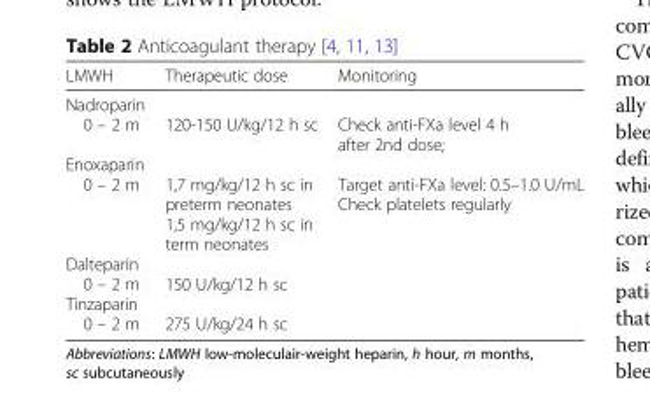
<table><thead><tr><td>LMWH</td><td>Therapeutic dose</td><td>Monitoring</td></tr></thead><tbody><tr><td>Nadroparin 0 – 2 m Enoxaparin 0 – 2 m Dalteparin 0 – 2 m Tinzaparin 0 – 2 m</td><td>120-150 U/kg/12 h sc 1,7 mg/kg/12 h sc in preterm neonates 1,5 mg/kg/12 h sc in term neonates 150 U/kg/12 h sc 275 U/kg/24 h sc</td><td>Check anti-FXa level 4 h after 2nd dose; Target anti-FXa level: 0.5–1.0 U/mL Check platelets regularly</td></tr></tbody></table>